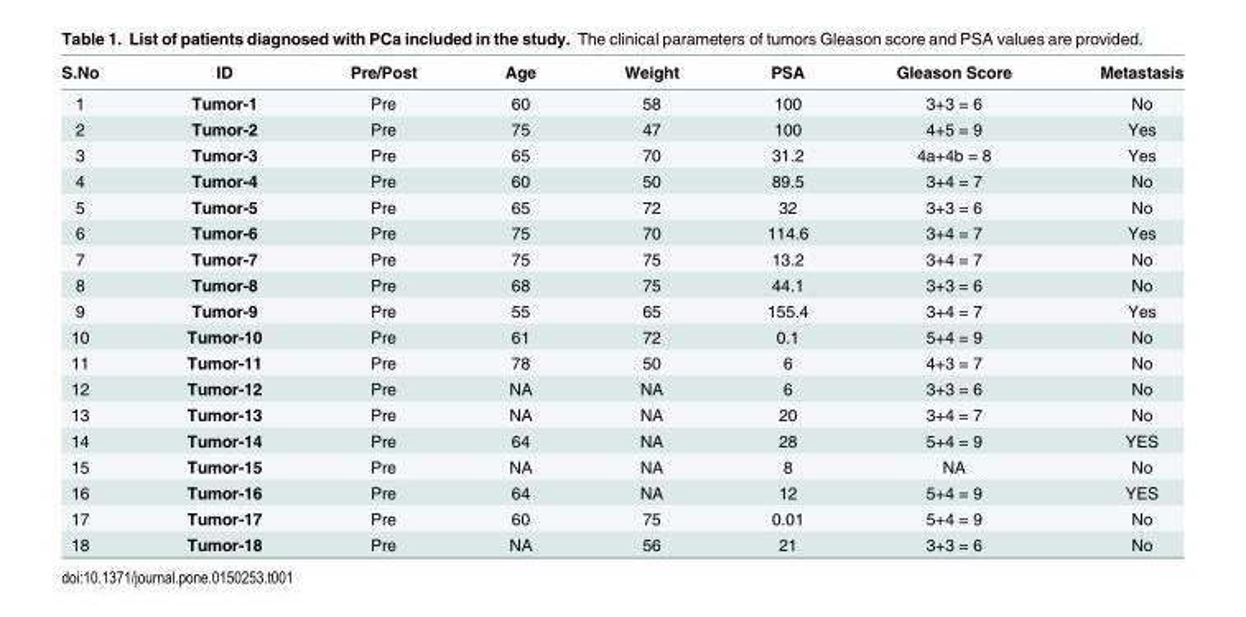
<table><thead><tr><td>S.No</td><td>ID</td><td>Pre/Post</td><td>Age</td><td>Weight</td><td>PSA</td><td>Gleason Score</td><td>Metastasis</td></tr></thead><tbody><tr><td>1</td><td>Tumor-1</td><td>Pre</td><td>60</td><td>58</td><td>100</td><td>3+3 = 6</td><td>No</td></tr><tr><td>2</td><td>Tumor-2</td><td>Pre</td><td>75</td><td>47</td><td>100</td><td>4+5 = 9</td><td>Yes</td></tr><tr><td>3</td><td>Tumor-3</td><td>Pre</td><td>65</td><td>70</td><td>31.2</td><td>4a+4b = 8</td><td>Yes</td></tr><tr><td>4</td><td>Tumor-4</td><td>Pre</td><td>60</td><td>50</td><td>89.5</td><td>3+4 = 7</td><td>No</td></tr><tr><td>5</td><td>Tumor-5</td><td>Pre</td><td>65</td><td>72</td><td>32</td><td>3+3 = 6</td><td>No</td></tr><tr><td>6</td><td>Tumor-6</td><td>Pre</td><td>75</td><td>70</td><td>114.6</td><td>3+4 = 7</td><td>Yes</td></tr><tr><td>7</td><td>Tumor-7</td><td>Pre</td><td>75</td><td>75</td><td>13.2</td><td>3+4 = 7</td><td>No</td></tr><tr><td>8</td><td>Tumor-8</td><td>Pre</td><td>68</td><td>75</td><td>44.1</td><td>3+3 = 6</td><td>No</td></tr><tr><td>9</td><td>Tumor-9</td><td>Pre</td><td>55</td><td>65</td><td>155.4</td><td>3+4 = 7</td><td>Yes</td></tr><tr><td>10</td><td>Tumor-10</td><td>Pre</td><td>61</td><td>72</td><td>0.1</td><td>5+4 = 9</td><td>No</td></tr><tr><td>11</td><td>Tumor-11</td><td>Pre</td><td>78</td><td>50</td><td>6</td><td>4+3 = 7</td><td>No</td></tr><tr><td>12</td><td>Tumor-12</td><td>Pre</td><td>NA</td><td>NA</td><td>6</td><td>3+3 = 6</td><td>No</td></tr><tr><td>13</td><td>Tumor-13</td><td>Pre</td><td>NA</td><td>NA</td><td>20</td><td>3+4 = 7</td><td>No</td></tr><tr><td>14</td><td>Tumor-14</td><td>Pre</td><td>64</td><td>NA</td><td>28</td><td>5+4 = 9</td><td>YES</td></tr><tr><td>15</td><td>Tumor-15</td><td>Pre</td><td>NA</td><td>NA</td><td>8</td><td>NA</td><td>No</td></tr><tr><td>16</td><td>Tumor-16</td><td>Pre</td><td>64</td><td>NA</td><td>12</td><td>5+4 = 9</td><td>YES</td></tr><tr><td>17</td><td>Tumor-17</td><td>Pre</td><td>60</td><td>75</td><td>0.01</td><td>5+4 = 9</td><td>No</td></tr><tr><td>18</td><td>Tumor-18</td><td>Pre</td><td>NA</td><td>56</td><td>21</td><td>3+3 = 6</td><td>No</td></tr></tbody></table>